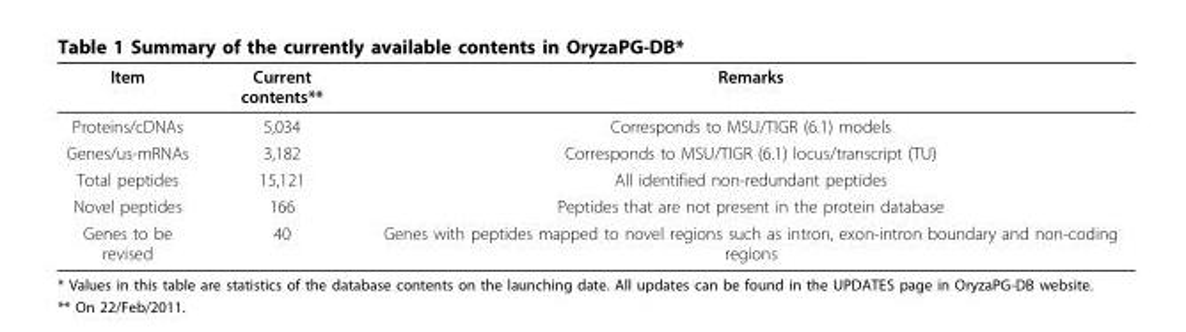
<table><thead><tr><td>Item</td><td>Current contents**</td><td>Remarks</td></tr></thead><tbody><tr><td>Proteins/cDNAs</td><td>5,034</td><td>Corresponds to MSU/TIGR (6.1) models</td></tr><tr><td>Genes/us-mRNAs</td><td>3,182</td><td>Corresponds to MSU/TIGR (6.1) locus/transcript (TU)</td></tr><tr><td>Total peptides</td><td>15,121</td><td>All identified non-redundant peptides</td></tr><tr><td>Novel peptides</td><td>166</td><td>Peptides that are not present in the protein database</td></tr><tr><td>Genes to be revised</td><td>40</td><td>Genes with peptides mapped to novel regions such as intron, exon-intron boundary and non-coding regions</td></tr></tbody></table>